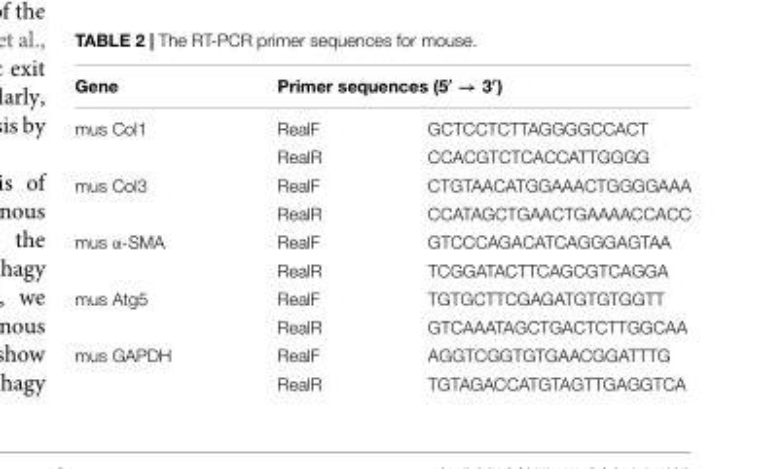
<table><thead><tr><td rowspan="2">Gene mus Col1</td><td colspan="2">Primer sequences (5′ → 3′)</td></tr><tr><td>RealF</td><td>GCTCCTCTTAGGGGCCACT</td></tr></thead><tbody><tr><td></td><td>RealR</td><td>CCACGTCTCACCATTGGGG</td></tr><tr><td rowspan="2">mus Col3</td><td>RealF</td><td>CTGTAACATGGAAACTGGGGAAA</td></tr><tr><td>RealR</td><td>CCATAGCTGAACTGAAAACCACC</td></tr><tr><td rowspan="2">mus α-SMA</td><td>RealF</td><td>GTCCCAGACATCAGGGAGTAA</td></tr><tr><td>RealR</td><td>TCGGATACTTCAGCGTCAGGA</td></tr><tr><td rowspan="2">mus Atg5</td><td>RealF</td><td>TGTGCTTCGAGATGTGTGGTT</td></tr><tr><td>RealR</td><td>GTCAAATAGCTGACTCTTGGCAA</td></tr><tr><td rowspan="2">mus GAPDH</td><td>RealF</td><td>AGGTCGGTGTGAACGGATTTG</td></tr><tr><td>RealR</td><td>TGTAGACCATGTAGTTGAGGTCA</td></tr></tbody></table>